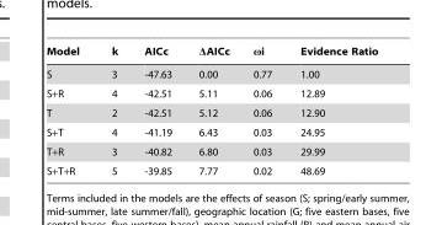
<table><thead><tr><td>Model</td><td>k</td><td>AICc</td><td>ΔAICc</td><td>ωi</td><td>Evidence Ratio</td></tr></thead><tbody><tr><td>S</td><td>3</td><td>-47.63</td><td>0.00</td><td>0.77</td><td>1.00</td></tr><tr><td>S+R</td><td>4</td><td>-42.51</td><td>5.11</td><td>0.06</td><td>12.89</td></tr><tr><td>T</td><td>2</td><td>-42.51</td><td>5.12</td><td>0.06</td><td>12.90</td></tr><tr><td>S+T</td><td>4</td><td>-41.19</td><td>6.43</td><td>0.03</td><td>24.95</td></tr><tr><td>T+R</td><td>3</td><td>-40.82</td><td>6.80</td><td>0.03</td><td>29.99</td></tr><tr><td>S+T+R</td><td>5</td><td>-39.85</td><td>7.77</td><td>0.02</td><td>48.69</td></tr></tbody></table>